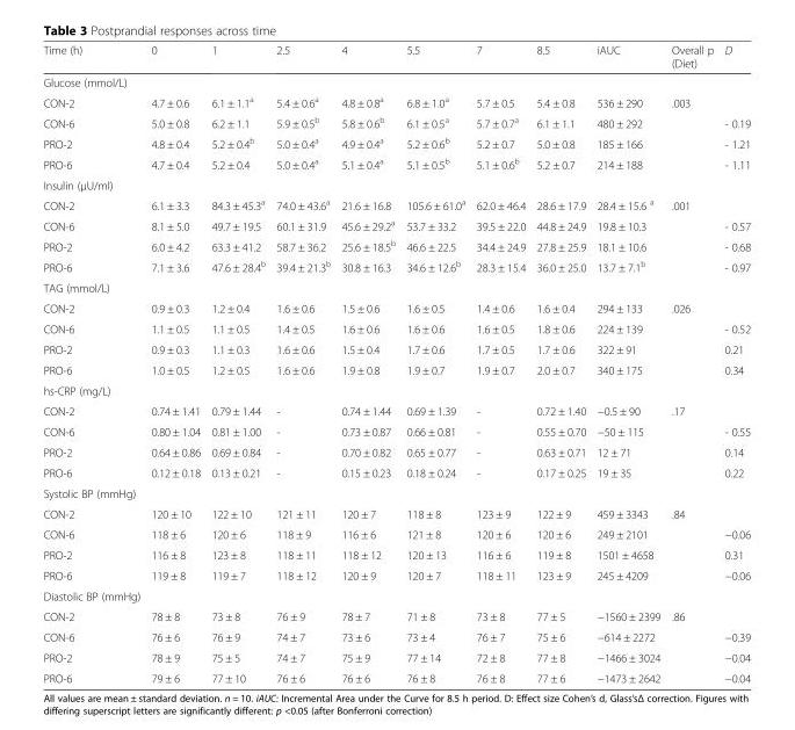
<table><thead><tr><td>Time (h)</td><td>0</td><td>1</td><td>2.5</td><td>4</td><td>5.5</td><td>7</td><td>8.5</td><td>iAUC</td><td>Overall p (Diet)</td><td>D</td></tr></thead><tbody><tr><td colspan="11">Glucose (mmol/L)</td></tr><tr><td>CON-2</td><td>4.7 ± 0.6</td><td>6.1 ± 1.1<sup>a</sup></td><td>5.4 ± 0.6<sup>a</sup></td><td>4.8 ± 0.8<sup>a</sup></td><td>6.8 ± 1.0<sup>a</sup></td><td>5.7 ± 0.5</td><td>5.4 ± 0.8</td><td>536 ± 290</td><td>.003</td><td></td></tr><tr><td>CON-6</td><td>5.0 ± 0.8</td><td>6.2 ± 1.1</td><td>5.9 ± 0.5<sup>b</sup></td><td>5.8 ± 0.6<sup>b</sup></td><td>6.1 ± 0.5<sup>a</sup></td><td>5.7 ± 0.7<sup>a</sup></td><td>6.1 ± 1.1</td><td>480 ± 292</td><td></td><td>- 0.19</td></tr><tr><td>PRO-2</td><td>4.8 ± 0.4</td><td>5.2 ± 0.4<sup>b</sup></td><td>5.0 ± 0.4<sup>a</sup></td><td>4.9 ± 0.4<sup>a</sup></td><td>5.2 ± 0.6<sup>b</sup></td><td>5.2 ± 0.7</td><td>5.0 ± 0.8</td><td>185 ± 166</td><td></td><td>- 1.21</td></tr><tr><td>PRO-6</td><td>4.7 ± 0.4</td><td>5.2 ± 0.4</td><td>5.0 ± 0.4<sup>a</sup></td><td>5.1 ± 0.4<sup>a</sup></td><td>5.1 ± 0.5<sup>b</sup></td><td>5.1 ± 0.6<sup>b</sup></td><td>5.2 ± 0.7</td><td>214 ± 188</td><td></td><td>- 1.11</td></tr><tr><td colspan="11">Insulin (μU/ml)</td></tr><tr><td>CON-2</td><td>6.1 ± 3.3</td><td>84.3 ± 45.3<sup>a</sup></td><td>74.0 ± 43.6<sup>a</sup></td><td>21.6 ± 16.8</td><td>105.6 ± 61.0<sup>a</sup></td><td>62.0 ± 46.4</td><td>28.6 ± 17.9</td><td>28.4 ± 15.6 <sup>a</sup></td><td>.001</td><td></td></tr><tr><td>CON-6</td><td>8.1 ± 5.0</td><td>49.7 ± 19.5</td><td>60.1 ± 31.9</td><td>45.6 ± 29.2<sup>a</sup></td><td>53.7 ± 33.2</td><td>39.5 ± 22.0</td><td>44.8 ± 24.9</td><td>19.8 ± 10.3</td><td></td><td>- 0.57</td></tr><tr><td>PRO-2</td><td>6.0 ± 4.2</td><td>63.3 ± 41.2</td><td>58.7 ± 36.2</td><td>25.6 ± 18.5<sup>b</sup></td><td>46.6 ± 22.5</td><td>34.4 ± 24.9</td><td>27.8 ± 25.9</td><td>18.1 ± 10.6</td><td></td><td>- 0.68</td></tr><tr><td>PRO-6</td><td>7.1 ± 3.6</td><td>47.6 ± 28.4<sup>b</sup></td><td>39.4 ± 21.3<sup>b</sup></td><td>30.8 ± 16.3</td><td>34.6 ± 12.6<sup>b</sup></td><td>28.3 ± 15.4</td><td>36.0 ± 25.0</td><td>13.7 ± 7.1<sup>b</sup></td><td></td><td>- 0.97</td></tr><tr><td colspan="11">TAG (mmol/L)</td></tr><tr><td>CON-2</td><td>0.9 ± 0.3</td><td>1.2 ± 0.4</td><td>1.6 ± 0.6</td><td>1.5 ± 0.6</td><td>1.6 ± 0.5</td><td>1.4 ± 0.6</td><td>1.6 ± 0.4</td><td>294 ± 133</td><td>.026</td><td></td></tr><tr><td>CON-6</td><td>1.1 ± 0.5</td><td>1.1 ± 0.5</td><td>1.4 ± 0.5</td><td>1.6 ± 0.6</td><td>1.6 ± 0.6</td><td>1.6 ± 0.5</td><td>1.8 ± 0.6</td><td>224 ± 139</td><td></td><td>- 0.52</td></tr><tr><td>PRO-2</td><td>0.9 ± 0.3</td><td>1.1 ± 0.3</td><td>1.6 ± 0.6</td><td>1.5 ± 0.4</td><td>1.7 ± 0.6</td><td>1.7 ± 0.5</td><td>1.7 ± 0.6</td><td>322 ± 91</td><td></td><td>0.21</td></tr><tr><td>PRO-6</td><td>1.0 ± 0.5</td><td>1.2 ± 0.5</td><td>1.6 ± 0.6</td><td>1.9 ± 0.8</td><td>1.9 ± 0.7</td><td>1.9 ± 0.7</td><td>2.0 ± 0.7</td><td>340 ± 175</td><td></td><td>0.34</td></tr><tr><td colspan="11">hs-CRP (mg/L)</td></tr><tr><td>CON-2</td><td>0.74 ± 1.41</td><td>0.79 ± 1.44</td><td>-</td><td>0.74 ± 1.44</td><td>0.69 ± 1.39</td><td>-</td><td>0.72 ± 1.40</td><td>−0.5 ± 90</td><td>.17</td><td></td></tr><tr><td>CON-6</td><td>0.80 ± 1.04</td><td>0.81 ± 1.00</td><td>-</td><td>0.73 ± 0.87</td><td>0.66 ± 0.81</td><td>-</td><td>0.55 ± 0.70</td><td>−50 ± 115</td><td></td><td>- 0.55</td></tr><tr><td>PRO-2</td><td>0.64 ± 0.86</td><td>0.69 ± 0.84</td><td>-</td><td>0.70 ± 0.82</td><td>0.65 ± 0.77</td><td>-</td><td>0.63 ± 0.71</td><td>12 ± 71</td><td></td><td>0.14</td></tr><tr><td>PRO-6</td><td>0.12 ± 0.18</td><td>0.13 ± 0.21</td><td>-</td><td>0.15 ± 0.23</td><td>0.18 ± 0.24</td><td>-</td><td>0.17 ± 0.25</td><td>19 ± 35</td><td></td><td>0.22</td></tr><tr><td colspan="11">Systolic BP (mmHg)</td></tr><tr><td>CON-2</td><td>120 ± 10</td><td>122 ± 10</td><td>121 ± 11</td><td>120 ± 7</td><td>118 ± 8</td><td>123 ± 9</td><td>122 ± 9</td><td>459 ± 3343</td><td>.84</td><td></td></tr><tr><td>CON-6</td><td>118 ± 6</td><td>120 ± 6</td><td>118 ± 9</td><td>116 ± 6</td><td>121 ± 8</td><td>120 ± 6</td><td>120 ± 6</td><td>249 ± 2101</td><td></td><td>−0.06</td></tr><tr><td>PRO-2</td><td>116 ± 8</td><td>123 ± 8</td><td>118 ± 11</td><td>118 ± 12</td><td>120 ± 13</td><td>116 ± 6</td><td>119 ± 8</td><td>1501 ± 4658</td><td></td><td>0.31</td></tr><tr><td>PRO-6</td><td>119 ± 8</td><td>119 ± 7</td><td>118 ± 12</td><td>120 ± 9</td><td>120 ± 7</td><td>118 ± 11</td><td>123 ± 9</td><td>245 ± 4209</td><td></td><td>−0.06</td></tr><tr><td colspan="11">Diastolic BP (mmHg)</td></tr><tr><td>CON-2</td><td>78 ± 8</td><td>73 ± 8</td><td>76 ± 9</td><td>78 ± 7</td><td>71 ± 8</td><td>73 ± 8</td><td>77 ± 5</td><td>−1560 ± 2399</td><td>.86</td><td></td></tr><tr><td>CON-6</td><td>76 ± 6</td><td>76 ± 9</td><td>74 ± 7</td><td>73 ± 6</td><td>73 ± 4</td><td>76 ± 7</td><td>75 ± 6</td><td>−614 ± 2272</td><td></td><td>−0.39</td></tr><tr><td>PRO-2</td><td>78 ± 9</td><td>75 ± 5</td><td>74 ± 7</td><td>75 ± 9</td><td>77 ± 14</td><td>72 ± 8</td><td>77 ± 8</td><td>−1466 ± 3024</td><td></td><td>−0.04</td></tr><tr><td>PRO-6</td><td>79 ± 6</td><td>77 ± 10</td><td>76 ± 6</td><td>76 ± 6</td><td>76 ± 8</td><td>76 ± 8</td><td>77 ± 6</td><td>−1473 ± 2642</td><td></td><td>−0.04</td></tr></tbody></table>